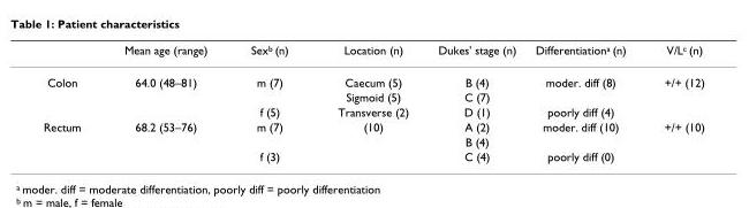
<table><thead><tr><td></td><td>Mean age (range)</td><td>Sexb (n)</td><td>Location (n)</td><td>Dukes&#x27; stage (n)</td><td>Differentiationa (n)</td><td>V/Lc (n)</td></tr></thead><tbody><tr><td rowspan="3">Colon</td><td>64.0 (48–81)</td><td>m (7)</td><td>Caecum (5)</td><td>B (4)</td><td>moder. diff (8)</td><td>+/+ (12)</td></tr><tr><td></td><td></td><td>Sigmoid (5)</td><td>C (7)</td><td></td><td></td></tr><tr><td></td><td>f (5)</td><td>Transverse (2)</td><td>D (1)</td><td>poorly diff (4)</td><td></td></tr><tr><td rowspan="3">Rectum</td><td>68.2 (53–76)</td><td>m (7)</td><td>(10)</td><td>A (2)</td><td>moder. diff (10)</td><td>+/+ (10)</td></tr><tr><td></td><td></td><td></td><td>B (4)</td><td></td><td></td></tr><tr><td></td><td>f (3)</td><td></td><td>C (4)</td><td>poorly diff (0)</td><td></td></tr></tbody></table>